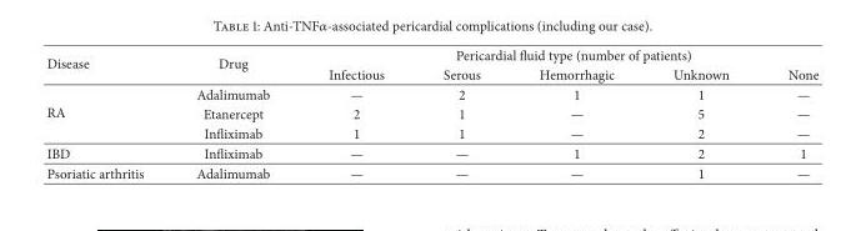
<table><thead><tr><td rowspan="2">Disease</td><td rowspan="2">Drug</td><td colspan="5">Pericardial fluid type (number of patients)</td></tr><tr><td>Infectious</td><td>Serous</td><td>Hemorrhagic</td><td>Unknown</td><td>None</td></tr></thead><tbody><tr><td rowspan="3">RA</td><td>Adalimumab</td><td>—</td><td>2</td><td>1</td><td>1</td><td>—</td></tr><tr><td>Etanercept</td><td>2</td><td>1</td><td>—</td><td>5</td><td>—</td></tr><tr><td>Infliximab</td><td>1</td><td>1</td><td>—</td><td>2</td><td>—</td></tr><tr><td>IBD</td><td>Infliximab</td><td>—</td><td>—</td><td>1</td><td>2</td><td>1</td></tr><tr><td>Psoriatic arthritis</td><td>Adalimumab</td><td>—</td><td>—</td><td>—</td><td>1</td><td>—</td></tr></tbody></table>